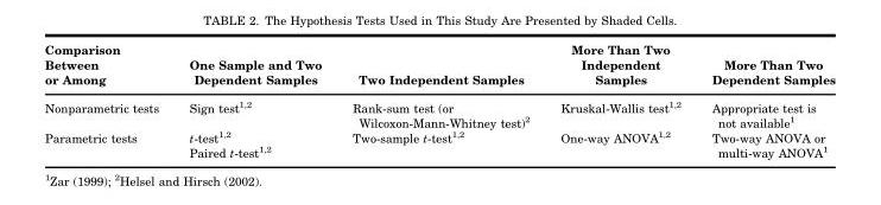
<table><thead><tr><td>Comparison Between or Among</td><td>One Sample and Two Dependent Samples</td><td>Two Independent Samples</td><td>More Than Two Independent Samples</td><td>More Than Two Dependent Samples</td></tr></thead><tbody><tr><td>Nonparametric tests</td><td>Sign test<sup>1</sup>,<sup>2</sup></td><td>Rank-sum test (or Wilcoxon-Mann-Whitney test)<sup>2</sup></td><td>Kruskal-Wallis test<sup>1</sup>,<sup>2</sup></td><td>Appropriate test is not available<sup>1</sup></td></tr><tr><td>Parametric tests</td><td>t-test<sup>1</sup>,<sup>2</sup> Paired t-test<sup>1</sup>,<sup>2</sup></td><td>Two-sample t-test<sup>1</sup>,<sup>2</sup></td><td>One-way ANOVA<sup>1</sup>,<sup>2</sup></td><td>Two-way ANOVA or multi-way ANOVA<sup>1</sup></td></tr></tbody></table>